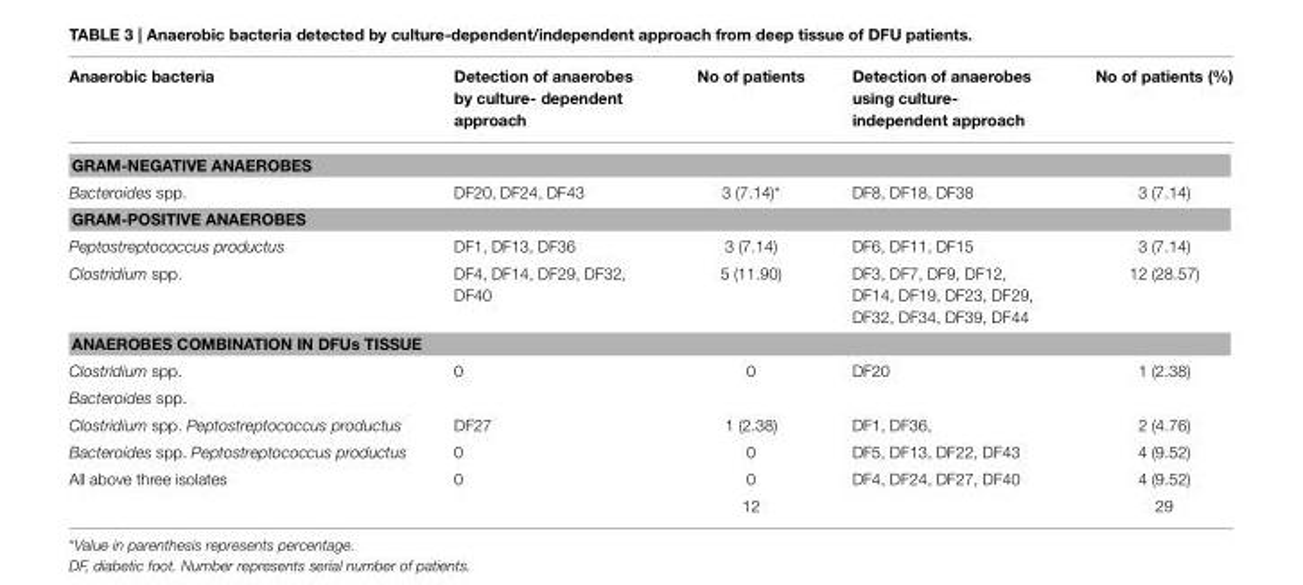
<table><thead><tr><td>Anaerobic bacteria</td><td>Detection of anaerobes by culture- dependent approach</td><td>No of patients</td><td>Detection of anaerobes using culture- independent approach</td><td>No of patients (%)</td></tr></thead><tbody><tr><td colspan="5">GRAM-NEGATIVE ANAEROBES</td></tr><tr><td>Bacteroides spp.</td><td>DF20, DF24, DF43</td><td>3 (7.14)*</td><td>DF8, DF18, DF38</td><td>3 (7.14)</td></tr><tr><td colspan="5">GRAM-POSITIVE ANAEROBES</td></tr><tr><td>Peptostreptococcus productus</td><td>DF1, DF13, DF36</td><td>3 (7.14)</td><td>DF6, DF11, DF15</td><td>3 (7.14)</td></tr><tr><td>Clostridium spp.</td><td>DF4, DF14, DF29, DF32, DF40</td><td>5 (11.90)</td><td>DF3, DF7, DF9, DF12, DF14, DF19, DF23, DF29, DF32, DF34, DF39, DF44</td><td>12 (28.57)</td></tr><tr><td colspan="5">ANAEROBES COMBINATION IN DFUs TISSUE</td></tr><tr><td>Clostridium spp.</td><td>0</td><td>0</td><td>DF20</td><td>1 (2.38)</td></tr><tr><td colspan="5">Bacteroides spp.</td></tr><tr><td>Clostridium spp. Peptostreptococcus productus</td><td>DF27</td><td>1 (2.38)</td><td>DF1, DF36,</td><td>2 (4.76)</td></tr><tr><td>Bacteroides spp. Peptostreptococcus productus</td><td>0</td><td>0</td><td>DF5, DF13, DF22, DF43</td><td>4 (9.52)</td></tr><tr><td rowspan="2">All above three isolates</td><td>0</td><td>0</td><td>DF4, DF24, DF27, DF40</td><td>4 (9.52)</td></tr><tr><td></td><td>12</td><td></td><td>29</td></tr></tbody></table>